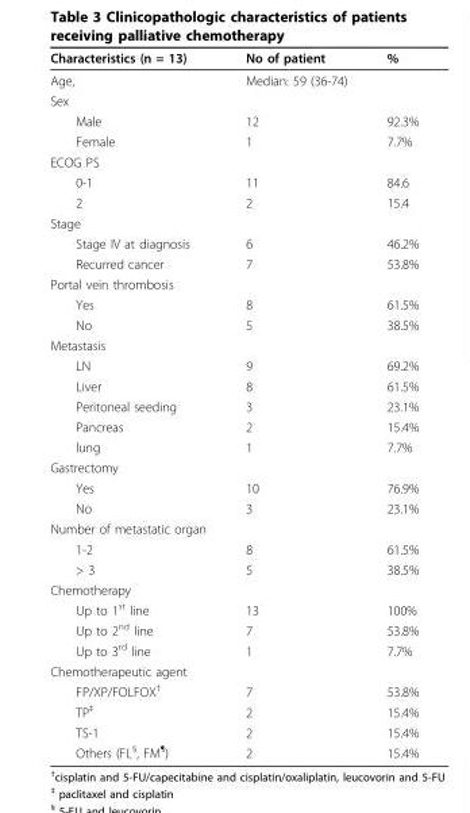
<table><thead><tr><td>Characteristics (n = 13)</td><td>No of patient</td><td>%</td></tr></thead><tbody><tr><td>Age,</td><td>Median: 59 (36-74)</td><td></td></tr><tr><td colspan="3">Sex</td></tr><tr><td>Male</td><td>12</td><td>92.3%</td></tr><tr><td>Female</td><td>1</td><td>7.7%</td></tr><tr><td colspan="3">ECOG PS</td></tr><tr><td>0-1</td><td>11</td><td>84.6</td></tr><tr><td>2</td><td>2</td><td>15.4</td></tr><tr><td colspan="3">Stage</td></tr><tr><td>Stage IV at diagnosis</td><td>6</td><td>46.2%</td></tr><tr><td>Recurred cancer</td><td>7</td><td>53.8%</td></tr><tr><td colspan="3">Portal vein thrombosis</td></tr><tr><td>Yes</td><td>8</td><td>61.5%</td></tr><tr><td>No</td><td>5</td><td>38.5%</td></tr><tr><td colspan="3">Metastasis</td></tr><tr><td>LN</td><td>9</td><td>69.2%</td></tr><tr><td>Liver</td><td>8</td><td>61.5%</td></tr><tr><td>Peritoneal seeding</td><td>3</td><td>23.1%</td></tr><tr><td>Pancreas</td><td>2</td><td>15.4%</td></tr><tr><td>lung</td><td>1</td><td>7.7%</td></tr><tr><td colspan="3">Gastrectomy</td></tr><tr><td>Yes</td><td>10</td><td>76.9%</td></tr><tr><td>No</td><td>3</td><td>23.1%</td></tr><tr><td colspan="3">Number of metastatic organ</td></tr><tr><td>1-2</td><td>8</td><td>61.5%</td></tr><tr><td>&gt; 3</td><td>5</td><td>38.5%</td></tr><tr><td colspan="3">Chemotherapy</td></tr><tr><td>Up to 1<sup>st</sup> line</td><td>13</td><td>100%</td></tr><tr><td>Up to 2<sup>nd</sup> line</td><td>7</td><td>53.8%</td></tr><tr><td>Up to 3<sup>rd</sup> line</td><td>1</td><td>7.7%</td></tr><tr><td colspan="3">Chemotherapeutic agent</td></tr><tr><td>FP/XP/FOLFOX<sup>†</sup></td><td>7</td><td>53.8%</td></tr><tr><td>TP<sup>‡</sup></td><td>2</td><td>15.4%</td></tr><tr><td>TS-1</td><td>2</td><td>15.4%</td></tr><tr><td>Others (FL<sup>§</sup>, FM<sup>¶</sup>)</td><td>2</td><td>15.4%</td></tr></tbody></table>